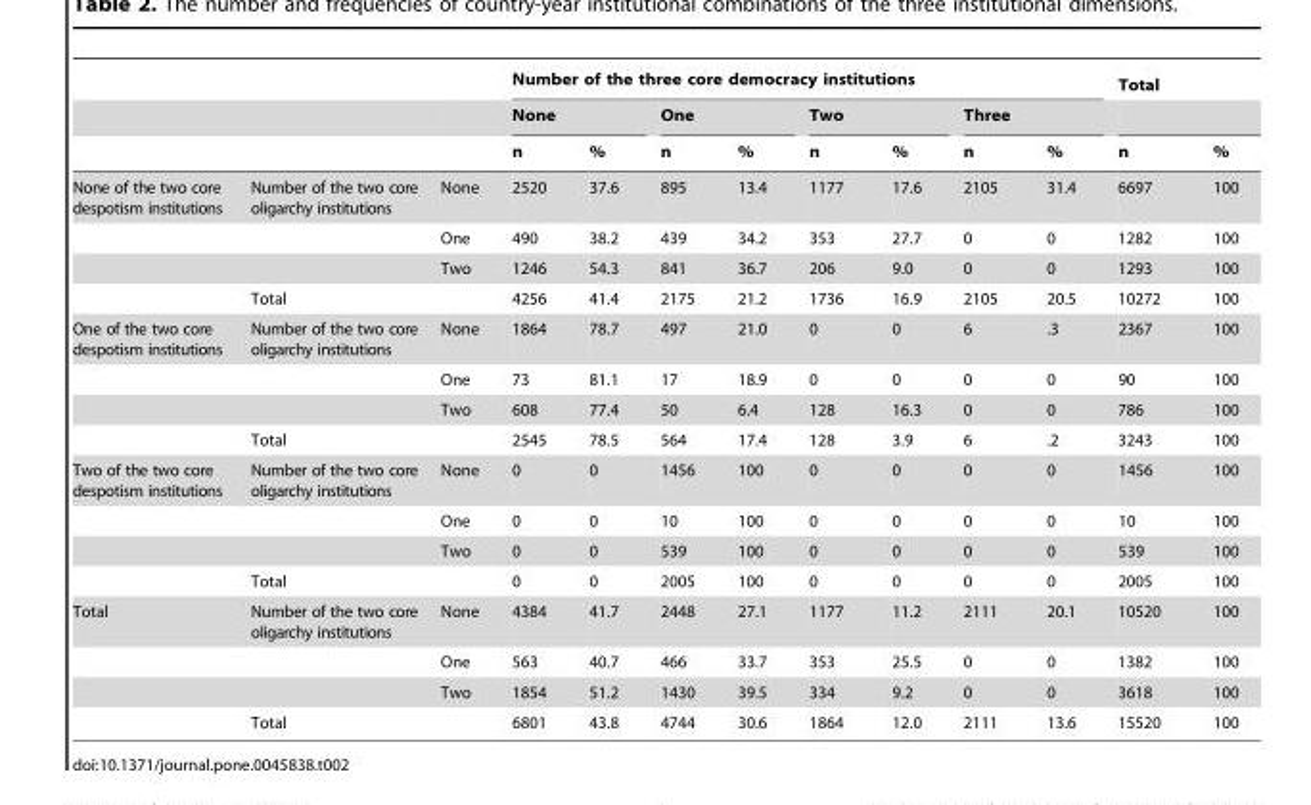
<table><thead><tr><td rowspan="3"></td><td rowspan="3"></td><td rowspan="3"></td><td colspan="8">Number of the three core democracy institutions</td><td colspan="2">Total</td></tr><tr><td colspan="2">None</td><td colspan="2">One</td><td colspan="2">Two</td><td colspan="2">Three</td><td rowspan="2">n</td><td rowspan="2">%</td></tr><tr><td>n</td><td>%</td><td>n</td><td>%</td><td>n</td><td>%</td><td>n</td><td>%</td></tr></thead><tbody><tr><td rowspan="4">None of the two core despotism institutions</td><td>Number of the two core oligarchy institutions</td><td>None</td><td>2520</td><td>37.6</td><td>895</td><td>13.4</td><td>1177</td><td>17.6</td><td>2105</td><td>31.4</td><td>6697</td><td>100</td></tr><tr><td></td><td>One</td><td>490</td><td>38.2</td><td>439</td><td>34.2</td><td>353</td><td>27.7</td><td>0</td><td>0</td><td>1282</td><td>100</td></tr><tr><td></td><td>Two</td><td>1246</td><td>54.3</td><td>841</td><td>36.7</td><td>206</td><td>9.0</td><td>0</td><td>0</td><td>1293</td><td>100</td></tr><tr><td>Total</td><td></td><td>4256</td><td>41.4</td><td>2175</td><td>21.2</td><td>1736</td><td>16.9</td><td>2105</td><td>20.5</td><td>10272</td><td>100</td></tr><tr><td rowspan="4">One of the two core despotism institutions</td><td>Number of the two core oligarchy institutions</td><td>None</td><td>1864</td><td>78.7</td><td>497</td><td>21.0</td><td>0</td><td>0</td><td>6</td><td>.3</td><td>2367</td><td>100</td></tr><tr><td></td><td>One</td><td>73</td><td>81.1</td><td>17</td><td>18.9</td><td>0</td><td>0</td><td>0</td><td>0</td><td>90</td><td>100</td></tr><tr><td></td><td>Two</td><td>608</td><td>77.4</td><td>50</td><td>6.4</td><td>128</td><td>16.3</td><td>0</td><td>0</td><td>786</td><td>100</td></tr><tr><td>Total</td><td></td><td>2545</td><td>78.5</td><td>564</td><td>17.4</td><td>128</td><td>3.9</td><td>6</td><td>.2</td><td>3243</td><td>100</td></tr><tr><td rowspan="4">Two of the two core despotism institutions</td><td>Number of the two core oligarchy institutions</td><td>None</td><td>0</td><td>0</td><td>1456</td><td>100</td><td>0</td><td>0</td><td>0</td><td>0</td><td>1456</td><td>100</td></tr><tr><td></td><td>One</td><td>0</td><td>0</td><td>10</td><td>100</td><td>0</td><td>0</td><td>0</td><td>0</td><td>10</td><td>100</td></tr><tr><td></td><td>Two</td><td>0</td><td>0</td><td>539</td><td>100</td><td>0</td><td>0</td><td>0</td><td>0</td><td>539</td><td>100</td></tr><tr><td>Total</td><td></td><td>0</td><td>0</td><td>2005</td><td>100</td><td>0</td><td>0</td><td>0</td><td>0</td><td>2005</td><td>100</td></tr><tr><td rowspan="4">Total</td><td>Number of the two core oligarchy institutions</td><td>None</td><td>4384</td><td>41.7</td><td>2448</td><td>27.1</td><td>1177</td><td>11.2</td><td>2111</td><td>20.1</td><td>10520</td><td>100</td></tr><tr><td></td><td>One</td><td>563</td><td>40.7</td><td>466</td><td>33.7</td><td>353</td><td>25.5</td><td>0</td><td>0</td><td>1382</td><td>100</td></tr><tr><td></td><td>Two</td><td>1854</td><td>51.2</td><td>1430</td><td>39.5</td><td>334</td><td>9.2</td><td>0</td><td>0</td><td>3618</td><td>100</td></tr><tr><td>Total</td><td></td><td>6801</td><td>43.8</td><td>4744</td><td>30.6</td><td>1864</td><td>12.0</td><td>2111</td><td>13.6</td><td>15520</td><td>100</td></tr></tbody></table>